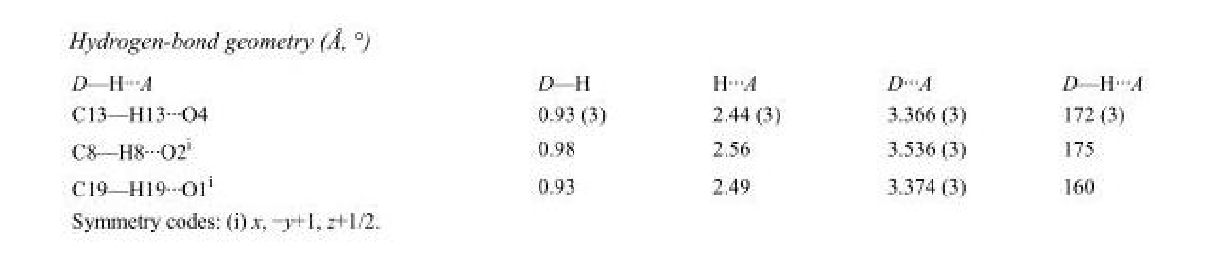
<table><tbody><tr><td>D—H···A</td><td>D—H</td><td>H···A</td><td>D···A</td><td>D—H···A</td></tr><tr><td>C13—H13···O4</td><td>0.93 (3)</td><td>2.44 (3)</td><td>3.366 (3)</td><td>172 (3)</td></tr><tr><td>C8—H8···O2<sup>i</sup></td><td>0.98</td><td>2.56</td><td>3.536 (3)</td><td>175</td></tr><tr><td>C19—H19···O1<sup>i</sup></td><td>0.93</td><td>2.49</td><td>3.374 (3)</td><td>160</td></tr></tbody></table>